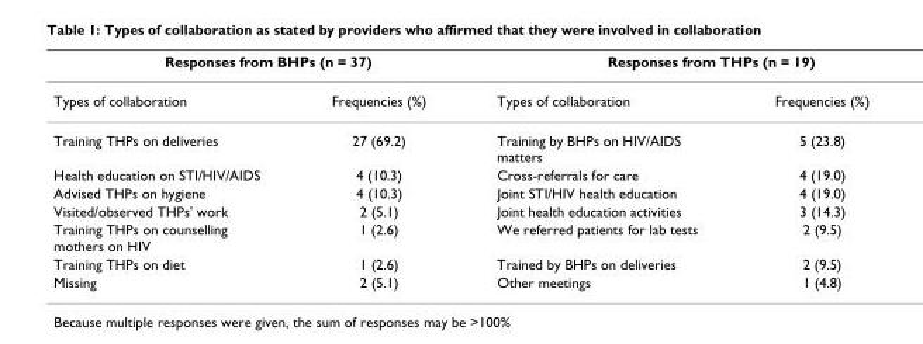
<table><thead><tr><td colspan="2">Responses from BHPs (n = 37)</td><td colspan="2">Responses from THPs (n = 19)</td></tr><tr><td>Types of collaboration</td><td>Frequencies (%)</td><td>Types of collaboration</td><td>Frequencies (%)</td></tr></thead><tbody><tr><td>Training THPs on deliveries</td><td>27 (69.2)</td><td>Training by BHPs on HIV/AIDS matters</td><td>5 (23.8)</td></tr><tr><td>Health education on STI/HIV/AIDS</td><td>4 (10.3)</td><td>Cross-referrals for care</td><td>4 (19.0)</td></tr><tr><td>Advised THPs on hygiene</td><td>4 (10.3)</td><td>Joint STI/HIV health education</td><td>4 (19.0)</td></tr><tr><td>Visited/observed THPs&#x27; work</td><td>2 (5.1)</td><td>Joint health education activities</td><td>3 (14.3)</td></tr><tr><td>Training THPs on counselling mothers on HIV</td><td>1 (2.6)</td><td>We referred patients for lab tests</td><td>2 (9.5)</td></tr><tr><td>Training THPs on diet</td><td>1 (2.6)</td><td>Trained by BHPs on deliveries</td><td>2 (9.5)</td></tr><tr><td>Missing</td><td>2 (5.1)</td><td>Other meetings</td><td>1 (4.8)</td></tr></tbody></table>